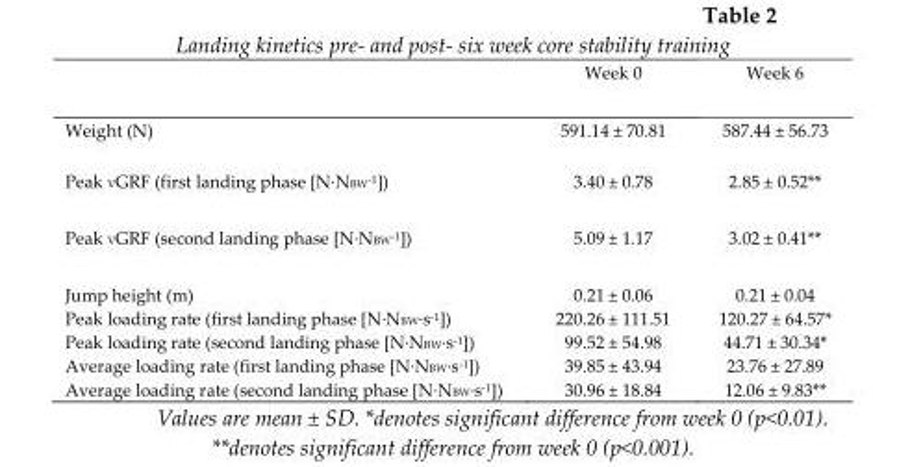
<table><thead><tr><td></td><td>Week 0</td><td>Week 6</td></tr></thead><tbody><tr><td>Weight (N)</td><td>591.14 ± 70.81</td><td>587.44 ± 56.73</td></tr><tr><td>Peak VGRF (first landing phase [N·N<sub>BW</sub><sup>-1</sup>])</td><td>3.40 ± 0.78</td><td>2.85 ± 0.52**</td></tr><tr><td>Peak VGRF (second landing phase [N·N<sub>BW</sub><sup>-1</sup>])</td><td>5.09 ± 1.17</td><td>3.02 ± 0.41**</td></tr><tr><td>Jump height (m)</td><td>0.21 ± 0.06</td><td>0.21 ± 0.04</td></tr><tr><td>Peak loading rate (first landing phase [N·N<sub>BW</sub>·s<sup>-1</sup>])</td><td>220.26 ± 111.51</td><td>120.27 ± 64.57*</td></tr><tr><td>Peak loading rate (second landing phase [N·N<sub>BW</sub>·s<sup>-1</sup>])</td><td>99.52 ± 54.98</td><td>44.71 ± 30.34*</td></tr><tr><td>Average loading rate (first landing phase [N·N<sub>BW</sub>·s<sup>-1</sup>])</td><td>39.85 ± 43.94</td><td>23.76 ± 27.89</td></tr><tr><td>Average loading rate (second landing phase [N·N<sub>BW</sub>·s<sup>-1</sup>])</td><td>30.96 ± 18.84</td><td>12.06 ± 9.83**</td></tr></tbody></table>